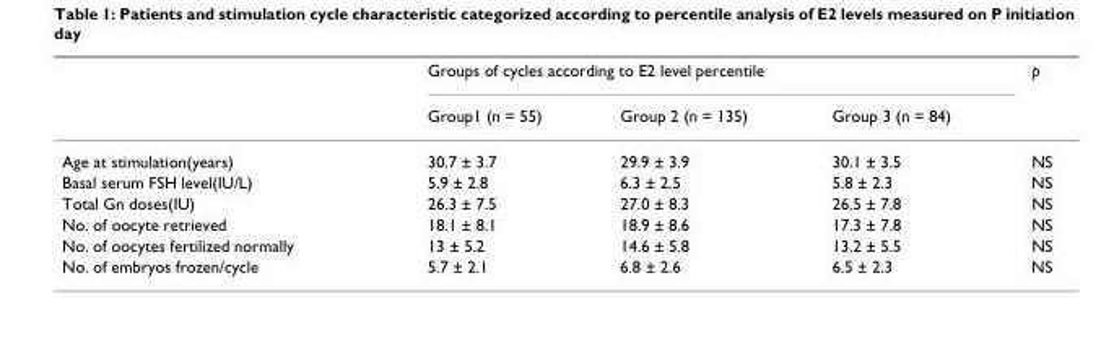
<table><thead><tr><td rowspan="2"></td><td colspan="3">Groups of cycles according to E2 level percentile</td><td rowspan="2">p</td></tr><tr><td>Group1 (n = 55)</td><td>Group 2 (n = 135)</td><td>Group 3 (n = 84)</td></tr></thead><tbody><tr><td>Age at stimulation(years)</td><td>30.7 ± 3.7</td><td>29.9 ± 3.9</td><td>30.1 ± 3.5</td><td>NS</td></tr><tr><td>Basal serum FSH level(IU/L)</td><td>5.9 ± 2.8</td><td>6.3 ± 2.5</td><td>5.8 ± 2.3</td><td>NS</td></tr><tr><td>Total Gn doses(IU)</td><td>26.3 ± 7.5</td><td>27.0 ± 8.3</td><td>26.5 ± 7.8</td><td>NS</td></tr><tr><td>No. of oocyte retrieved</td><td>18.1 ± 8.1</td><td>18.9 ± 8.6</td><td>17.3 ± 7.8</td><td>NS</td></tr><tr><td>No. of oocytes fertilized normally</td><td>13 ± 5.2</td><td>14.6 ± 5.8</td><td>13.2 ± 5.5</td><td>NS</td></tr><tr><td>No. of embryos frozen/cycle</td><td>5.7 ± 2.1</td><td>6.8 ± 2.6</td><td>6.5 ± 2.3</td><td>NS</td></tr></tbody></table>